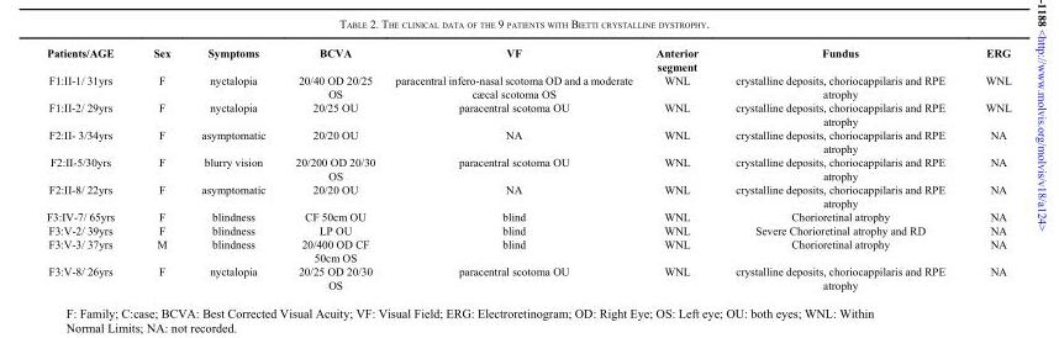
<table><thead><tr><td>Patients/AGE</td><td>Sex</td><td>Symptoms</td><td>BCVA</td><td>VF</td><td>Anterior segment</td><td>Fundus</td><td>ERG</td></tr></thead><tbody><tr><td>F1:II-1/ 31yrs</td><td>F</td><td>nyctalopia</td><td>20/40 OD 20/25 OS</td><td>paracentral infero-nasal scotoma OD and a moderate cæcal scotoma OS</td><td>WNL</td><td>crystalline deposits, choriocappilaris and RPE atrophy</td><td>WNL</td></tr><tr><td>F1:II-2/ 29yrs</td><td>F</td><td>nyctalopia</td><td>20/25 OU</td><td>paracentral scotoma OU</td><td>WNL</td><td>crystalline deposits, choriocappilaris and RPE atrophy</td><td>WNL</td></tr><tr><td>F2:II- 3/34yrs</td><td>F</td><td>asymptomatic</td><td>20/20 OU</td><td>NA</td><td>WNL</td><td>crystalline deposits, choriocappilaris and RPE atrophy</td><td>NA</td></tr><tr><td>F2:II-5/30yrs</td><td>F</td><td>blurry vision</td><td>20/200 OD 20/30 OS</td><td>paracentral scotoma OU</td><td>WNL</td><td>crystalline deposits, choriocappilaris and RPE atrophy</td><td>NA</td></tr><tr><td>F2:II-8/ 22yrs</td><td>F</td><td>asymptomatic</td><td>20/20 OU</td><td>NA</td><td>WNL</td><td>crystalline deposits, choriocappilaris and RPE atrophy</td><td>NA</td></tr><tr><td>F3:IV-7/ 65yrs</td><td>F</td><td>blindness</td><td>CF 50cm OU</td><td>blind</td><td>WNL</td><td>Chorioretinal atrophy</td><td>NA</td></tr><tr><td>F3:V-2/ 39yrs</td><td>F</td><td>blindness</td><td>LP OU</td><td>blind</td><td>WNL</td><td>Severe Chorioretinal atrophy and RD</td><td>NA</td></tr><tr><td>F3:V-3/ 37yrs</td><td>M</td><td>blindness</td><td>20/400 OD CF 50cm OS</td><td>blind</td><td>WNL</td><td>Chorioretinal atrophy</td><td>NA</td></tr><tr><td>F3:V-8/ 26yrs</td><td>F</td><td>nyctalopia</td><td>20/25 OD 20/30 OS</td><td>paracentral scotoma OU</td><td>WNL</td><td>crystalline deposits, choriocappilaris and RPE atrophy</td><td>NA</td></tr></tbody></table>